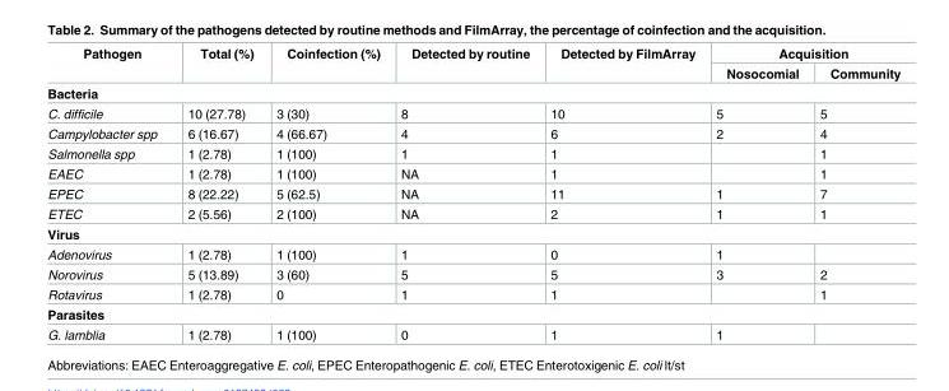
<table><thead><tr><td rowspan="2">Pathogen</td><td rowspan="2">Total (%)</td><td rowspan="2">Coinfection (%)</td><td rowspan="2">Detected by routine</td><td rowspan="2">Detected by FilmArray</td><td colspan="2">Acquisition</td></tr><tr><td>Nosocomial</td><td>Community</td></tr></thead><tbody><tr><td colspan="7">Bacteria</td></tr><tr><td>C. difficile</td><td>10 (27.78)</td><td>3 (30)</td><td>8</td><td>10</td><td>5</td><td>5</td></tr><tr><td>Campylobacter spp</td><td>6 (16.67)</td><td>4 (66.67)</td><td>4</td><td>6</td><td>2</td><td>4</td></tr><tr><td>Salmonella spp</td><td>1 (2.78)</td><td>1 (100)</td><td>1</td><td>1</td><td></td><td>1</td></tr><tr><td>EAEC</td><td>1 (2.78)</td><td>1 (100)</td><td>NA</td><td>1</td><td></td><td>1</td></tr><tr><td>EPEC</td><td>8 (22.22)</td><td>5 (62.5)</td><td>NA</td><td>11</td><td>1</td><td>7</td></tr><tr><td>ETEC</td><td>2 (5.56)</td><td>2 (100)</td><td>NA</td><td>2</td><td>1</td><td>1</td></tr><tr><td colspan="7">Virus</td></tr><tr><td>Adenovirus</td><td>1 (2.78)</td><td>1 (100)</td><td>1</td><td>0</td><td>1</td><td></td></tr><tr><td>Norovirus</td><td>5 (13.89)</td><td>3 (60)</td><td>5</td><td>5</td><td>3</td><td>2</td></tr><tr><td>Rotavirus</td><td>1 (2.78)</td><td>0</td><td>1</td><td>1</td><td></td><td>1</td></tr><tr><td colspan="7">Parasites</td></tr><tr><td>G. lamblia</td><td>1 (2.78)</td><td>1 (100)</td><td>0</td><td>1</td><td>1</td><td></td></tr></tbody></table>